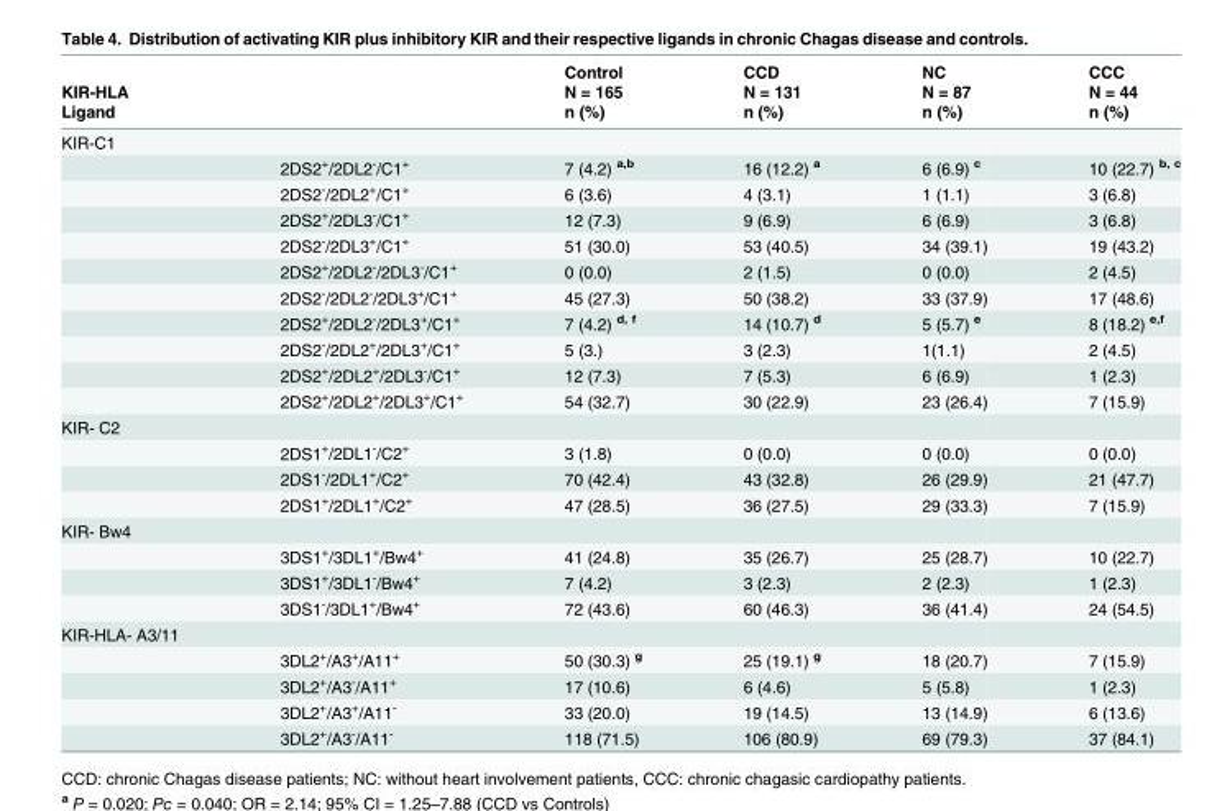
<table><thead><tr><td rowspan="3">KIR-HLA Ligand</td><td rowspan="3"></td><td rowspan="3">Control N = 165 n (%)</td><td rowspan="3">CCD N = 131 n (%)</td><td rowspan="3">NC N = 87 n (%)</td><td rowspan="3">CCC N = 44 n (%)</td></tr><tr></tr><tr></tr></thead><tbody><tr><td colspan="6">KIR-C1</td></tr><tr><td></td><td>2DS2<sup>+</sup>/2DL2<sup>-</sup>/C1<sup>+</sup></td><td>7 (4.2) <sup>a,b</sup></td><td>16 (12.2) <sup>a</sup></td><td>6 (6.9) <sup>c</sup></td><td>10 (22.7)</td></tr><tr><td></td><td>2DS2<sup>-</sup>/2DL2<sup>+</sup>/C1<sup>+</sup></td><td>6 (3.6)</td><td>4 (3.1)</td><td>1 (1.1)</td><td>3 (6.8)</td></tr><tr><td></td><td>2DS2<sup>+</sup>/2DL3<sup>-</sup>/C1<sup>+</sup></td><td>12 (7.3)</td><td>9 (6.9)</td><td>6 (6.9)</td><td>3 (6.8)</td></tr><tr><td></td><td>2DS2<sup>-</sup>/2DL3<sup>+</sup>/C1<sup>+</sup></td><td>51 (30.0)</td><td>53 (40.5)</td><td>34 (39.1)</td><td>19 (43.2)</td></tr><tr><td></td><td>2DS2<sup>+</sup>/2DL2<sup>-</sup>/2DL3<sup>-</sup>/C1<sup>+</sup></td><td>0 (0.0)</td><td>2 (1.5)</td><td>0 (0.0)</td><td>2 (4.5)</td></tr><tr><td></td><td>2DS2<sup>-</sup>/2DL2<sup>-</sup>/2DL3<sup>+</sup>/C1<sup>+</sup></td><td>45 (27.3)</td><td>50 (38.2)</td><td>33 (37.9)</td><td>17 (48.6)</td></tr><tr><td></td><td>2DS2<sup>+</sup>/2DL2<sup>-</sup>/2DL3<sup>+</sup>/C1<sup>+</sup></td><td>7 (4.2) <sup>d, f</sup></td><td>14 (10.7) <sup>d</sup></td><td>5 (5.7) <sup>e</sup></td><td>8 (18.2)</td></tr><tr><td></td><td>2DS2<sup>-</sup>/2DL2<sup>+</sup>/2DL3<sup>+</sup>/C1<sup>+</sup></td><td>5 (3.)</td><td>3 (2.3)</td><td>1(1.1)</td><td>2 (4.5)</td></tr><tr><td></td><td>2DS2<sup>+</sup>/2DL2<sup>+</sup>/2DL3<sup>-</sup>/C1<sup>+</sup></td><td>12 (7.3)</td><td>7 (5.3)</td><td>6 (6.9)</td><td>1 (2.3)</td></tr><tr><td></td><td>2DS2<sup>+</sup>/2DL2<sup>+</sup>/2DL3<sup>+</sup>/C1<sup>+</sup></td><td>54 (32.7)</td><td>30 (22.9)</td><td>23 (26.4)</td><td>7 (15.9)</td></tr><tr><td colspan="6">KIR- C2</td></tr><tr><td></td><td>2DS1<sup>+</sup>/2DL1<sup>-</sup>/C2<sup>+</sup></td><td>3 (1.8)</td><td>0 (0.0)</td><td>0 (0.0)</td><td>0 (0.0)</td></tr><tr><td></td><td>2DS1<sup>-</sup>/2DL1<sup>+</sup>/C2<sup>+</sup></td><td>70 (42.4)</td><td>43 (32.8)</td><td>26 (29.9)</td><td>21 (47.7)</td></tr><tr><td></td><td>2DS1<sup>+</sup>/2DL1<sup>+</sup>/C2<sup>+</sup></td><td>47 (28.5)</td><td>36 (27.5)</td><td>29 (33.3)</td><td>7 (15.9)</td></tr><tr><td colspan="6">KIR- Bw4</td></tr><tr><td></td><td>3DS1<sup>+</sup>/3DL1<sup>+</sup>/Bw4<sup>+</sup></td><td>41 (24.8)</td><td>35 (26.7)</td><td>25 (28.7)</td><td>10 (22.7)</td></tr><tr><td></td><td>3DS1<sup>+</sup>/3DL1<sup>-</sup>/Bw4<sup>+</sup></td><td>7 (4.2)</td><td>3 (2.3)</td><td>2 (2.3)</td><td>1 (2.3)</td></tr><tr><td></td><td>3DS1<sup>-</sup>/3DL1<sup>+</sup>/Bw4<sup>+</sup></td><td>72 (43.6)</td><td>60 (46.3)</td><td>36 (41.4)</td><td>24 (54.5)</td></tr><tr><td colspan="6">KIR-HLA- A3/11</td></tr><tr><td></td><td>3DL2<sup>+</sup>/A3<sup>+</sup>/A11<sup>+</sup></td><td>50 (30.3) <sup>g</sup></td><td>25 (19.1) <sup>g</sup></td><td>18 (20.7)</td><td>7 (15.9)</td></tr><tr><td></td><td>3DL2<sup>+</sup>/A3<sup>-</sup>/A11<sup>+</sup></td><td>17 (10.6)</td><td>6 (4.6)</td><td>5 (5.8)</td><td>1 (2.3)</td></tr><tr><td></td><td>3DL2<sup>+</sup>/A3<sup>+</sup>/A11<sup>-</sup></td><td>33 (20.0)</td><td>19 (14.5)</td><td>13 (14.9)</td><td>6 (13.6)</td></tr><tr><td></td><td>3DL2<sup>+</sup>/A3<sup>-</sup>/A11<sup>-</sup></td><td>118 (71.5)</td><td>106 (80.9)</td><td>69 (79.3)</td><td>37 (84.1)</td></tr></tbody></table>